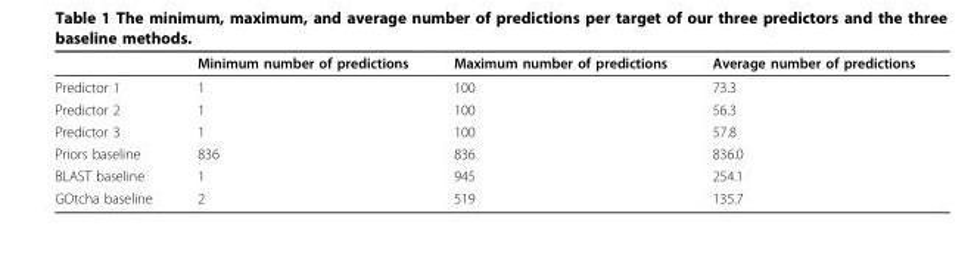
<table><thead><tr><td></td><td>Minimum number of predictions</td><td>Maximum number of predictions</td><td>Average number of predictions</td></tr></thead><tbody><tr><td>Predictor 1</td><td>1</td><td>100</td><td>73.3</td></tr><tr><td>Predictor 2</td><td>1</td><td>100</td><td>56.3</td></tr><tr><td>Predictor 3</td><td>1</td><td>100</td><td>57.8</td></tr><tr><td>Priors baseline</td><td>836</td><td>836</td><td>836.0</td></tr><tr><td>BLAST baseline</td><td>1</td><td>945</td><td>254.1</td></tr><tr><td>GOtcha baseline</td><td>2</td><td>519</td><td>135.7</td></tr></tbody></table>